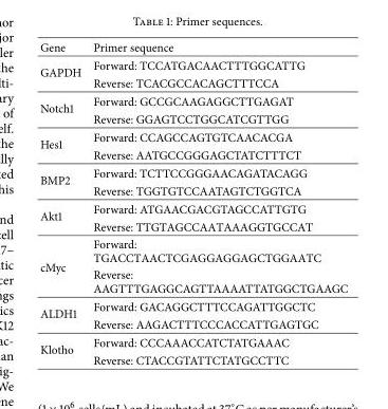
<table><thead><tr><td>Gene</td><td>Primer sequence</td></tr></thead><tbody><tr><td rowspan="2">GAPDH</td><td>Forward: TCCATGACAACTTTGGCATTG</td></tr><tr><td>Reverse: TCACGCCACAGCTTTCCA</td></tr><tr><td rowspan="2">Notch1</td><td>Forward: GCCGCAAGAGGCTTGAGAT</td></tr><tr><td>Reverse: GGAGTCCTGGCATCGTTGG</td></tr><tr><td rowspan="2">Hes1</td><td>Forward: CCAGCCAGTGTCAACACGA</td></tr><tr><td>Reverse: AATGCCGGGAGCTATCTTTCT</td></tr><tr><td rowspan="2">BMP2</td><td>Forward: TCTTCCGGGAACAGATACAGG</td></tr><tr><td>Reverse: TGGTGTCCAATAGTCTGGTCA</td></tr><tr><td rowspan="2">Akt1</td><td>Forward: ATGAACGACGTAGCCATTGTG</td></tr><tr><td>Reverse: TTGTAGCCAATAAAGGTGCCAT</td></tr><tr><td rowspan="2">cMyc</td><td>Forward: TGACCTAACTCGAGGAGGAGCTGGAATC</td></tr><tr><td>Reverse: AAGTTTGAGGCAGTTAAAATTATGGCTGAAGC</td></tr><tr><td rowspan="2">ALDH1</td><td>Forward: GACAGGCTTTCCAGATTGGCTC</td></tr><tr><td>Reverse: AAGACTTTCCCACCATTGAGTGC</td></tr><tr><td rowspan="2">Klotho</td><td>Forward: CCCAAACCATCTATGAAAC</td></tr><tr><td>Reverse: CTACCGTATTCTATGCCTTC</td></tr></tbody></table>